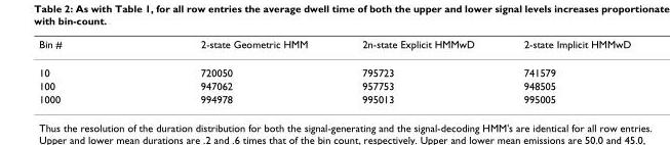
<table><thead><tr><td>Bin #</td><td>2-state Geometric HMM</td><td>2n-state Explicit HMMwD</td><td>2-state Implicit HMMwD</td></tr></thead><tbody><tr><td>10</td><td>720050</td><td>795723</td><td>741579</td></tr><tr><td>100</td><td>947062</td><td>957753</td><td>948505</td></tr><tr><td>1000</td><td>994978</td><td>995013</td><td>995005</td></tr></tbody></table>